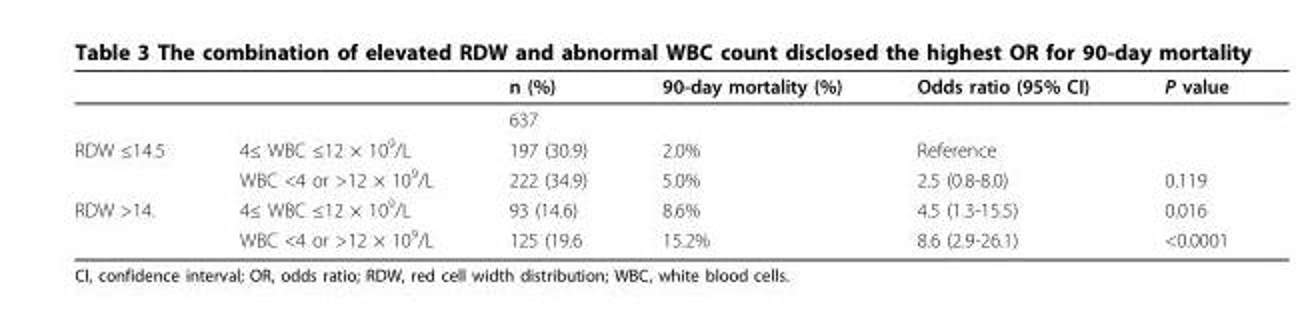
<table><thead><tr><td></td><td></td><td>n (%)</td><td>90-day mortality (%)</td><td>Odds ratio (95% CI)</td><td>P value</td></tr></thead><tbody><tr><td></td><td></td><td>637</td><td></td><td></td><td></td></tr><tr><td rowspan="2">RDW ≤14.5</td><td>4≤ WBC ≤12 × 10<sup>9</sup>/L</td><td>197 (30.9)</td><td>2.0%</td><td>Reference</td><td></td></tr><tr><td>WBC &lt;4 or &gt;12 × 10<sup>9</sup>/L</td><td>222 (34.9)</td><td>5.0%</td><td>2.5 (0.8-8.0)</td><td>0.119</td></tr><tr><td rowspan="2">RDW &gt;14.</td><td>4≤ WBC ≤12 × 10<sup>9</sup>/L</td><td>93 (14.6)</td><td>8.6%</td><td>4.5 (1.3-15.5)</td><td>0.016</td></tr><tr><td>WBC &lt;4 or &gt;12 × 10<sup>9</sup>/L</td><td>125 (19.6</td><td>15.2%</td><td>8.6 (2.9-26.1)</td><td>&lt;0.0001</td></tr></tbody></table>